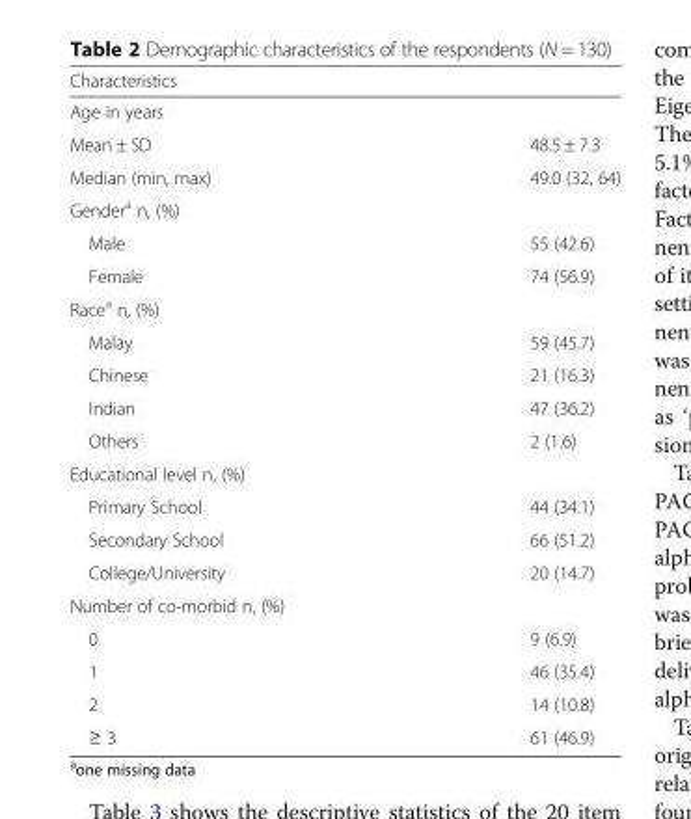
<table><thead><tr><td rowspan="2" colspan="2">Characteristics Age in years</td></tr><tr></tr><tr><td>Mean ± SD</td><td>48.5 ± 7.3</td></tr></thead><tbody><tr><td>Median (min, max)</td><td>49.0 (32, 64)</td></tr><tr><td colspan="2">Gender<sup>a</sup> n, (%)</td></tr><tr><td>Male</td><td>55 (42.6)</td></tr><tr><td>Female</td><td>74 (56.9)</td></tr><tr><td colspan="2">Race<sup>a</sup> n, (%)</td></tr><tr><td>Malay</td><td>59 (45.7)</td></tr><tr><td>Chinese</td><td>21 (16.3)</td></tr><tr><td>Indian</td><td>47 (36.2)</td></tr><tr><td>Others</td><td>2 (1.6)</td></tr><tr><td colspan="2">Educational level n, (%)</td></tr><tr><td>Primary School</td><td>44 (34.1)</td></tr><tr><td>Secondary School</td><td>66 (51.2)</td></tr><tr><td>College/University</td><td>20 (14.7)</td></tr><tr><td colspan="2">Number of co-morbid n, (%)</td></tr><tr><td>0</td><td>9 (6.9)</td></tr><tr><td>1</td><td>46 (35.4)</td></tr><tr><td>2</td><td>14 (10.8)</td></tr><tr><td>≥ 3</td><td>61 (46.9)</td></tr></tbody></table>